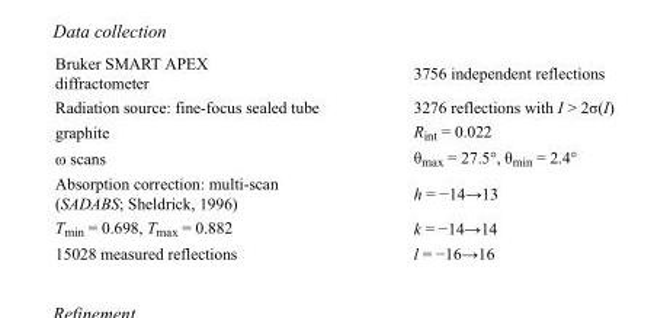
<table><tbody><tr><td>Bruker SMART APEX diffractometer</td><td>3756 independent reflections</td></tr><tr><td>Radiation source: fine-focus sealed tube</td><td>3276 reflections with I &gt; 2σ(I)</td></tr><tr><td>graphite</td><td>R<sub>int</sub> = 0.022</td></tr><tr><td>ω scans</td><td>θ<sub>max</sub> = 27.5°, θ<sub>min</sub> = 2.4°</td></tr><tr><td>Absorption correction: multi-scan (SADABS; Sheldrick, 1996)</td><td>h = −14→13</td></tr><tr><td>T<sub>min</sub> = 0.698, T<sub>max</sub> = 0.882</td><td>k = −14→14</td></tr><tr><td>15028 measured reflections</td><td>l = −16→16</td></tr></tbody></table>